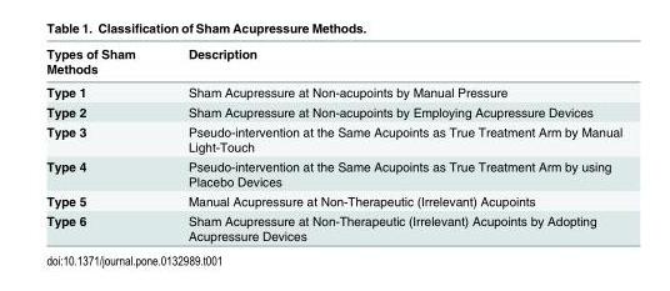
<table><thead><tr><td>Types of Sham Methods</td><td>Description</td></tr></thead><tbody><tr><td>Type 1</td><td>Sham Acupressure at Non-acupoints by Manual Pressure</td></tr><tr><td>Type 2</td><td>Sham Acupressure at Non-acupoints by Employing Acupressure Devices</td></tr><tr><td>Type 3</td><td>Pseudo-intervention at the Same Acupoints as True Treatment Arm by Manual Light-Touch</td></tr><tr><td>Type 4</td><td>Pseudo-intervention at the Same Acupoints as True Treatment Arm by using Placebo Devices</td></tr><tr><td>Type 5</td><td>Manual Acupressure at Non-Therapeutic (Irrelevant) Acupoints</td></tr><tr><td>Type 6</td><td>Sham Acupressure at Non-Therapeutic (Irrelevant) Acupoints by Adopting Acupressure Devices</td></tr></tbody></table>